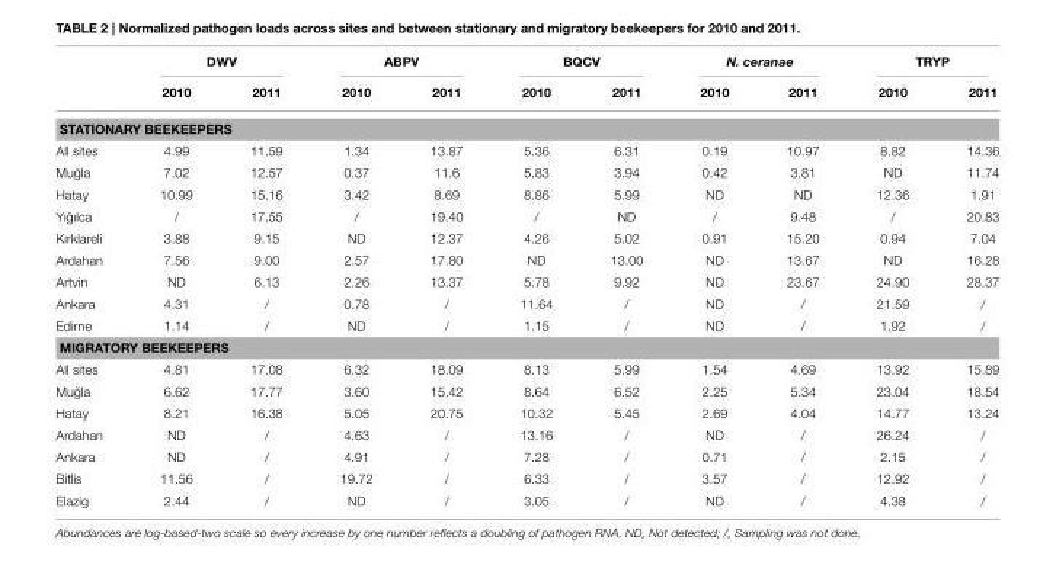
<table><thead><tr><td rowspan="2"></td><td colspan="2">DWV</td><td colspan="2">ABPV</td><td colspan="2">BQCV</td><td colspan="2">N. ceranae</td><td colspan="2">TRYP</td></tr><tr><td>2010</td><td>2011</td><td>2010</td><td>2011</td><td>2010</td><td>2011</td><td>2010</td><td>2011</td><td>2010</td><td>2011</td></tr></thead><tbody><tr><td colspan="11">STATIONARY BEEKEEPERS</td></tr><tr><td>All sites</td><td>4.99</td><td>11.59</td><td>1.34</td><td>13.87</td><td>5.36</td><td>6.31</td><td>0.19</td><td>10.97</td><td>8.82</td><td>14.36</td></tr><tr><td>Mu ˘gla</td><td>7.02</td><td>12.57</td><td>0.37</td><td>11.6</td><td>5.83</td><td>3.94</td><td>0.42</td><td>3.81</td><td>ND</td><td>11.74</td></tr><tr><td>Hatay</td><td>10.99</td><td>15.16</td><td>3.42</td><td>8.69</td><td>8.86</td><td>5.99</td><td>ND</td><td>ND</td><td>12.36</td><td>1.91</td></tr><tr><td>Yı ˘gılca</td><td>/</td><td>17.55</td><td>/</td><td>19.40</td><td>/</td><td>ND</td><td>/</td><td>9.48</td><td>/</td><td>20.83</td></tr><tr><td>Kırklareli</td><td>3.88</td><td>9.15</td><td>ND</td><td>12.37</td><td>4.26</td><td>5.02</td><td>0.91</td><td>15.20</td><td>0.94</td><td>7.04</td></tr><tr><td>Ardahan</td><td>7.56</td><td>9.00</td><td>2.57</td><td>17.80</td><td>ND</td><td>13.00</td><td>ND</td><td>13.67</td><td>ND</td><td>16.28</td></tr><tr><td>Artvin</td><td>ND</td><td>6.13</td><td>2.26</td><td>13.37</td><td>5.78</td><td>9.92</td><td>ND</td><td>23.67</td><td>24.90</td><td>28.37</td></tr><tr><td>Ankara</td><td>4.31</td><td>/</td><td>0.78</td><td>/</td><td>11.64</td><td>/</td><td>ND</td><td>/</td><td>21.59</td><td>/</td></tr><tr><td>Edirne</td><td>1.14</td><td>/</td><td>ND</td><td>/</td><td>1.15</td><td>/</td><td>ND</td><td>/</td><td>1.92</td><td>/</td></tr><tr><td colspan="11">MIGRATORY BEEKEEPERS</td></tr><tr><td>All sites</td><td>4.81</td><td>17.08</td><td>6.32</td><td>18.09</td><td>8.13</td><td>5.99</td><td>1.54</td><td>4.69</td><td>13.92</td><td>15.89</td></tr><tr><td>Mu ˘gla</td><td>6.62</td><td>17.77</td><td>3.60</td><td>15.42</td><td>8.64</td><td>6.52</td><td>2.25</td><td>5.34</td><td>23.04</td><td>18.54</td></tr><tr><td>Hatay</td><td>8.21</td><td>16.38</td><td>5.05</td><td>20.75</td><td>10.32</td><td>5.45</td><td>2.69</td><td>4.04</td><td>14.77</td><td>13.24</td></tr><tr><td>Ardahan</td><td>ND</td><td>/</td><td>4.63</td><td>/</td><td>13.16</td><td>/</td><td>ND</td><td>/</td><td>26.24</td><td>/</td></tr><tr><td>Ankara</td><td>ND</td><td>/</td><td>4.91</td><td>/</td><td>7.28</td><td>/</td><td>0.71</td><td>/</td><td>2.15</td><td>/</td></tr><tr><td>Bitlis</td><td>11.56</td><td>/</td><td>19.72</td><td>/</td><td>6.33</td><td>/</td><td>3.57</td><td>/</td><td>12.92</td><td>/</td></tr><tr><td>Elazig</td><td>2.44</td><td>/</td><td>ND</td><td>/</td><td>3.05</td><td>/</td><td>ND</td><td>/</td><td>4.38</td><td>/</td></tr></tbody></table>